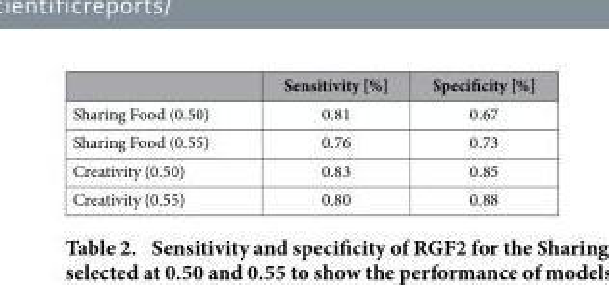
<table><thead><tr><td></td><td>Sensitivity [%]</td><td>Specificity [%]</td></tr></thead><tbody><tr><td>Sharing Food (0.50)</td><td>0.81</td><td>0.67</td></tr><tr><td>Sharing Food (0.55)</td><td>0.76</td><td>0.73</td></tr><tr><td>Creativity (0.50)</td><td>0.83</td><td>0.85</td></tr><tr><td>Creativity (0.55)</td><td>0.80</td><td>0.88</td></tr></tbody></table>